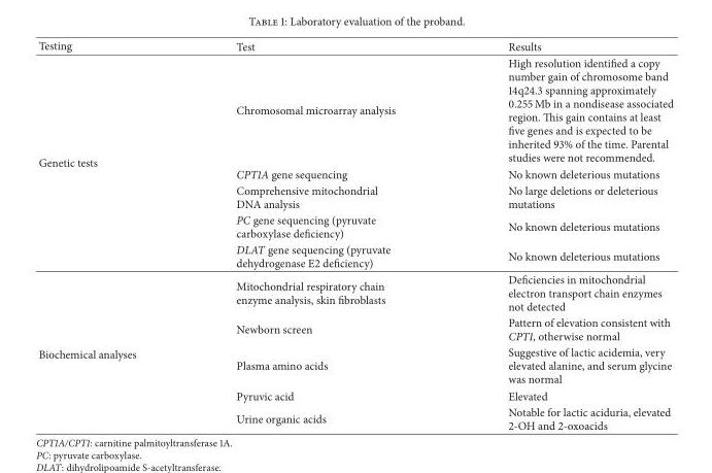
<table><thead><tr><td>Testing</td><td>Test</td><td>Results</td></tr></thead><tbody><tr><td rowspan="5">Genetic tests</td><td>Chromosomal microarray analysis</td><td>High resolution identified a copy number gain of chromosome band 14q24.3 spanning approximately 0.255 Mb in a nondisease associated region. This gain contains at least five genes and is expected to be inherited 93% of the time. Parental studies were not recommended.</td></tr><tr><td>CPT1A gene sequencing</td><td>No known deleterious mutations</td></tr><tr><td>Comprehensive mitochondrial DNA analysis</td><td>No large deletions or deleterious mutations</td></tr><tr><td>PC gene sequencing (pyruvate carboxylase deficiency)</td><td>No known deleterious mutations</td></tr><tr><td>DLAT gene sequencing (pyruvate dehydrogenase E2 deficiency)</td><td>No known deleterious mutations</td></tr><tr><td rowspan="5">Biochemical analyses</td><td>Mitochondrial respiratory chain enzyme analysis, skin fibroblasts</td><td>Deficiencies in mitochondrial electron transport chain enzymes not detected</td></tr><tr><td>Newborn screen</td><td>Pattern of elevation consistent with CPT1, otherwise normal</td></tr><tr><td>Plasma amino acids</td><td>Suggestive of lactic acidemia, very elevated alanine, and serum glycine was normal</td></tr><tr><td>Pyruvic acid</td><td>Elevated</td></tr><tr><td>Urine organic acids</td><td>Notable for lactic aciduria, elevated 2-OH and 2-oxoacids</td></tr></tbody></table>